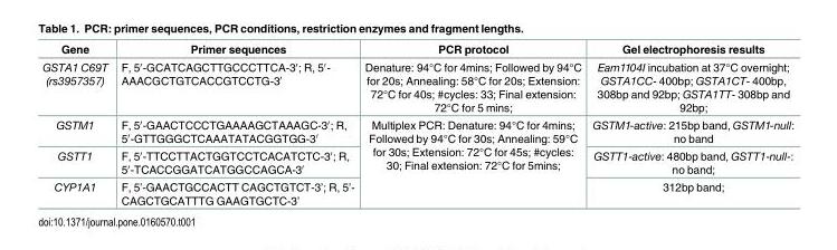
<table><thead><tr><td>Gene</td><td>Primer sequences</td><td>PCR protocol</td><td>Gel electrophoresis results</td></tr></thead><tbody><tr><td>GSTA1 C69T (rs3957357)</td><td>F, 5′-GCATCAGCTTGCCCTTCA-3′; R, 5′- AAACGCTGTCACCGTCCTG-3′</td><td>Denature: 94°C for 4mins; Followed by 94°C for 20s; Annealing: 58°C for 20s; Extension: 72°C for 40s; #cycles: 33; Final extension: 72°C for 5 mins;</td><td>Eam1104I incubation at 37°C overnight; GSTA1CC- 400bp; GSTA1CT- 400bp, 308bp and 92bp; GSTA1TT- 308bp and 92bp;</td></tr><tr><td>GSTM1</td><td>F, 5′-GAACTCCCTGAAAAGCTAAAGC-3′; R, 5′-GTTGGGCTCAAATATACGGTGG-3′</td><td rowspan="3">Multiplex PCR: Denature: 94°C for 4mins; Followed by 94°C for 30s; Annealing: 59°C for 30s; Extension: 72°C for 45s; #cycles: 30; Final extension: 72°C for 5mins;</td><td>GSTM1-active: 215bp band, GSTM1-null: no band</td></tr><tr><td>GSTT1</td><td>F, 5′-TTCCTTACTGGTCCTCACATCTC-3′; R, 5′-TCACCGGATCATGGCCAGCA-3′</td><td>GSTT1-active: 480bp band, GSTT1-null-: no band;</td></tr><tr><td>CYP1A1</td><td>F, 5’-GAACTGCCACTT CAGCTGTCT-3’; R, 5’- CAGCTGCATTTG GAAGTGCTC-3’</td><td>312bp band;</td></tr></tbody></table>